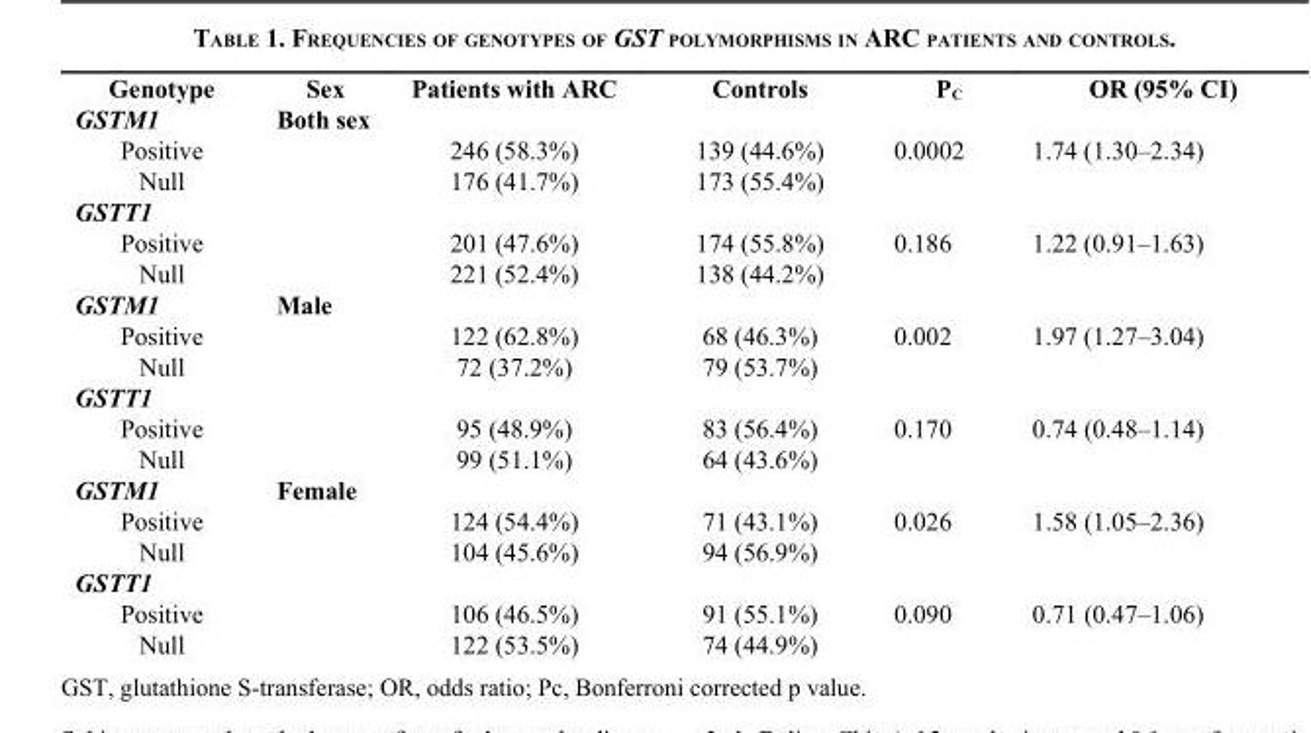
<table><thead><tr><td>Genotype</td><td>Sex</td><td>Patients with ARC</td><td>Controls</td><td>P<sub>C</sub></td><td>OR (95% CI)</td></tr></thead><tbody><tr><td>GSTM1</td><td colspan="5">Both sex</td></tr><tr><td>Positive</td><td></td><td>246 (58.3%)</td><td>139 (44.6%)</td><td rowspan="2">0.0002</td><td rowspan="2">1.74 (1.30–2.34)</td></tr><tr><td>Null</td><td></td><td>176 (41.7%)</td><td>173 (55.4%)</td></tr><tr><td colspan="6">GSTT1</td></tr><tr><td>Positive</td><td></td><td>201 (47.6%)</td><td>174 (55.8%)</td><td rowspan="2">0.186</td><td rowspan="2">1.22 (0.91–1.63)</td></tr><tr><td>Null</td><td></td><td>221 (52.4%)</td><td>138 (44.2%)</td></tr><tr><td>GSTM1</td><td colspan="5">Male</td></tr><tr><td>Positive</td><td></td><td>122 (62.8%)</td><td>68 (46.3%)</td><td rowspan="2">0.002</td><td rowspan="2">1.97 (1.27–3.04)</td></tr><tr><td>Null</td><td></td><td>72 (37.2%)</td><td>79 (53.7%)</td></tr><tr><td colspan="6">GSTT1</td></tr><tr><td>Positive</td><td></td><td>95 (48.9%)</td><td>83 (56.4%)</td><td rowspan="2">0.170</td><td rowspan="2">0.74 (0.48–1.14)</td></tr><tr><td>Null</td><td></td><td>99 (51.1%)</td><td>64 (43.6%)</td></tr><tr><td>GSTM1</td><td colspan="5">Female</td></tr><tr><td>Positive</td><td></td><td>124 (54.4%)</td><td>71 (43.1%)</td><td rowspan="2">0.026</td><td rowspan="2">1.58 (1.05–2.36)</td></tr><tr><td>Null</td><td></td><td>104 (45.6%)</td><td>94 (56.9%)</td></tr><tr><td colspan="6">GSTT1</td></tr><tr><td>Positive</td><td></td><td>106 (46.5%)</td><td>91 (55.1%)</td><td rowspan="2">0.090</td><td rowspan="2">0.71 (0.47–1.06)</td></tr><tr><td>Null</td><td></td><td>122 (53.5%)</td><td>74 (44.9%)</td></tr></tbody></table>